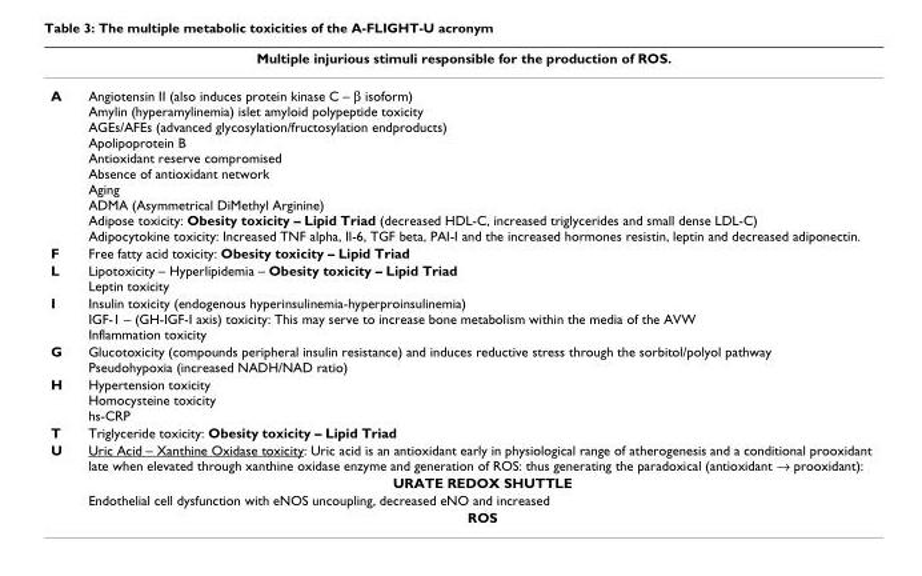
<table><thead><tr><td colspan="2">Multiple injurious stimuli responsible for the production of ROS.</td></tr><tr><td>A</td><td>Angiotensin II (also induces protein kinase C – β isoform) Amylin (hyperamylinemia) islet amyloid polypeptide toxicity AGEs/AFEs (advanced glycosylation/fructosylation endproducts) Apolipoprotein B Antioxidant reserve compromised Absence of antioxidant network Aging ADMA (Asymmetrical DiMethyl Arginine) Adipose toxicity: Obesity toxicity – Lipid Triad (decreased HDL-C, increased triglycerides and small dense LDL-C) Adipocytokine toxicity: Increased TNF alpha, Il-6, TGF beta, PAI-I and the increased hormones resistin, leptin and decreased adiponectin.</td></tr></thead><tbody><tr><td>F</td><td>Free fatty acid toxicity: Obesity toxicity – Lipid Triad</td></tr><tr><td>L</td><td>Lipotoxicity – Hyperlipidemia – Obesity toxicity – Lipid Triad Leptin toxicity</td></tr><tr><td>I</td><td>Insulin toxicity (endogenous hyperinsulinemia-hyperproinsulinemia) IGF-1 – (GH-IGF-I axis) toxicity: This may serve to increase bone metabolism within the media of the AVW Inflammation toxicity</td></tr><tr><td>G</td><td>Glucotoxicity (compounds peripheral insulin resistance) and induces reductive stress through the sorbitol/polyol pathway Pseudohypoxia (increased NADH/NAD ratio)</td></tr><tr><td>H</td><td>Hypertension toxicity Homocysteine toxicity hs-CRP</td></tr><tr><td>T</td><td>Triglyceride toxicity: Obesity toxicity – Lipid Triad</td></tr><tr><td rowspan="4">U</td><td>Uric Acid – Xanthine Oxidase toxicity: Uric acid is an antioxidant early in physiological range of atherogenesis and a conditional prooxidant late when elevated through xanthine oxidase enzyme and generation of ROS: thus generating the paradoxical (antioxidant → prooxidant):</td></tr><tr><td>URATE REDOX SHUTTLE</td></tr><tr><td>Endothelial cell dysfunction with eNOS uncoupling, decreased eNO and increased</td></tr><tr><td>ROS</td></tr></tbody></table>